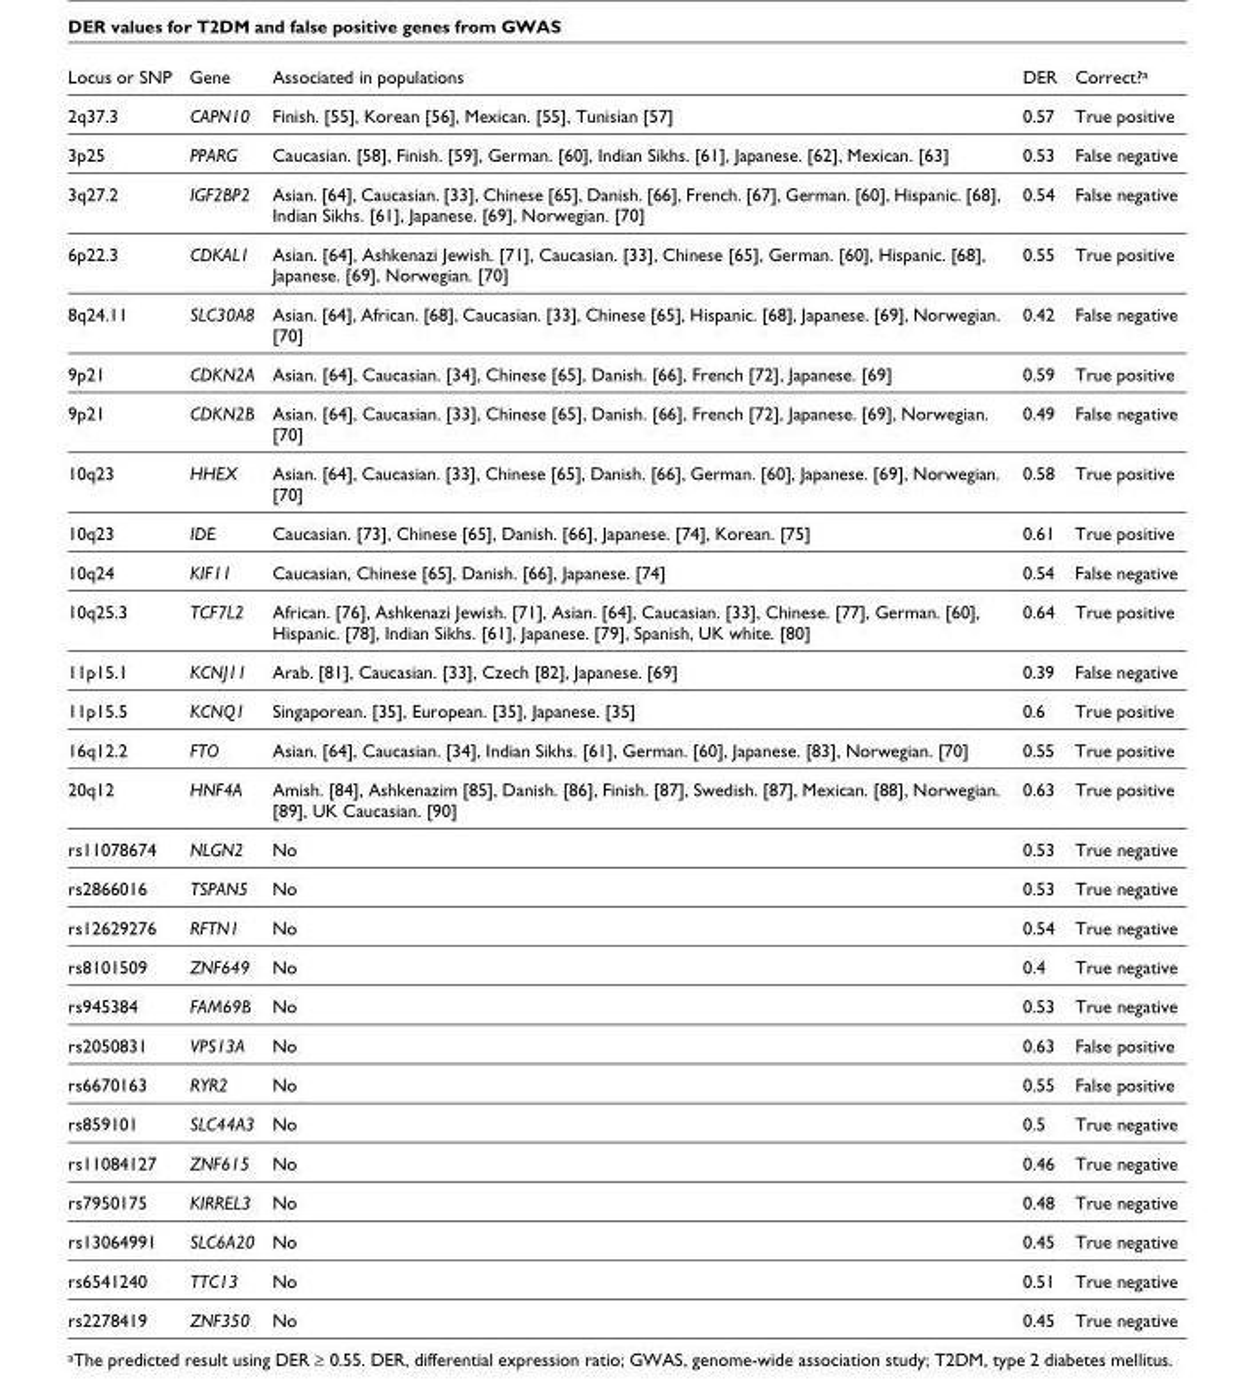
<table><thead><tr><td>Locus or SNP</td><td>Gene</td><td>Associated in populations</td><td>DER</td><td>Correct?<sup>a</sup></td></tr></thead><tbody><tr><td>2q37.3</td><td>CAPN10</td><td>Finish. [55], Korean [56], Mexican. [55], Tunisian [57]</td><td>0.57</td><td>True positive</td></tr><tr><td>3p25</td><td>PPARG</td><td>Caucasian. [58], Finish. [59], German. [60], Indian Sikhs. [61], Japanese. [62], Mexican. [63]</td><td>0.53</td><td>False negative</td></tr><tr><td>3q27.2</td><td>IGF2BP2</td><td>Asian. [64], Caucasian. [33], Chinese [65], Danish. [66], French. [67], German. [60], Hispanic. [68], Indian Sikhs. [61], Japanese. [69], Norwegian. [70]</td><td>0.54</td><td>False negative</td></tr><tr><td>6p22.3</td><td>CDKAL1</td><td>Asian. [64], Ashkenazi Jewish. [71], Caucasian. [33], Chinese [65], German. [60], Hispanic. [68], Japanese. [69], Norwegian. [70]</td><td>0.55</td><td>True positive</td></tr><tr><td>8q24.11</td><td>SLC30A8</td><td>Asian. [64], African. [68], Caucasian. [33], Chinese [65], Hispanic. [68], Japanese. [69], Norwegian. [70]</td><td>0.42</td><td>False negative</td></tr><tr><td>9p21</td><td>CDKN2A</td><td>Asian. [64], Caucasian. [34], Chinese [65], Danish. [66], French [72], Japanese. [69]</td><td>0.59</td><td>True positive</td></tr><tr><td>9p21</td><td>CDKN2B</td><td>Asian. [64], Caucasian. [33], Chinese [65], Danish. [66], French [72], Japanese. [69], Norwegian. [70]</td><td>0.49</td><td>False negative</td></tr><tr><td>10q23</td><td>HHEX</td><td>Asian. [64], Caucasian. [33], Chinese [65], Danish. [66], German. [60], Japanese. [69], Norwegian. [70]</td><td>0.58</td><td>True positive</td></tr><tr><td>10q23</td><td>IDE</td><td>Caucasian. [73], Chinese [65], Danish. [66], Japanese. [74], Korean. [75]</td><td>0.61</td><td>True positive</td></tr><tr><td>10q24</td><td>KIF11</td><td>Caucasian, Chinese [65], Danish. [66], Japanese. [74]</td><td>0.54</td><td>False negative</td></tr><tr><td>10q25.3</td><td>TCF7L2</td><td>African. [76], Ashkenazi Jewish. [71], Asian. [64], Caucasian. [33], Chinese. [77], German. [60], Hispanic. [78], Indian Sikhs. [61], Japanese. [79], Spanish, UK white. [80]</td><td>0.64</td><td>True positive</td></tr><tr><td>11p15.1</td><td>KCNJ11</td><td>Arab. [81], Caucasian. [33], Czech [82], Japanese. [69]</td><td>0.39</td><td>False negative</td></tr><tr><td>11p15.5</td><td>KCNQ1</td><td>Singaporean. [35], European. [35], Japanese. [35]</td><td>0.6</td><td>True positive</td></tr><tr><td>16q12.2</td><td>FTO</td><td>Asian. [64], Caucasian. [34], Indian Sikhs. [61], German. [60], Japanese. [83], Norwegian. [70]</td><td>0.55</td><td>True positive</td></tr><tr><td>20q12</td><td>HNF4A</td><td>Amish. [84], Ashkenazim [85], Danish. [86], Finish. [87], Swedish. [87], Mexican. [88], Norwegian. [89], UK Caucasian. [90]</td><td>0.63</td><td>True positive</td></tr><tr><td>rs11078674</td><td>NLGN2</td><td>No</td><td>0.53</td><td>True negative</td></tr><tr><td>rs2866016</td><td>TSPAN5</td><td>No</td><td>0.53</td><td>True negative</td></tr><tr><td>rs12629276</td><td>RFTN1</td><td>No</td><td>0.54</td><td>True negative</td></tr><tr><td>rs8101509</td><td>ZNF649</td><td>No</td><td>0.4</td><td>True negative</td></tr><tr><td>rs945384</td><td>FAM69B</td><td>No</td><td>0.53</td><td>True negative</td></tr><tr><td>rs2050831</td><td>VPS13A</td><td>No</td><td>0.63</td><td>False positive</td></tr><tr><td>rs6670163</td><td>RYR2</td><td>No</td><td>0.55</td><td>False positive</td></tr><tr><td>rs859101</td><td>SLC44A3</td><td>No</td><td>0.5</td><td>True negative</td></tr><tr><td>rs11084127</td><td>ZNF615</td><td>No</td><td>0.46</td><td>True negative</td></tr><tr><td>rs7950175</td><td>KIRREL3</td><td>No</td><td>0.48</td><td>True negative</td></tr><tr><td>rs13064991</td><td>SLC6A20</td><td>No</td><td>0.45</td><td>True negative</td></tr><tr><td>rs6541240</td><td>TTC13</td><td>No</td><td>0.51</td><td>True negative</td></tr><tr><td>rs2278419</td><td>ZNF350</td><td>No</td><td>0.45</td><td>True negative</td></tr></tbody></table>